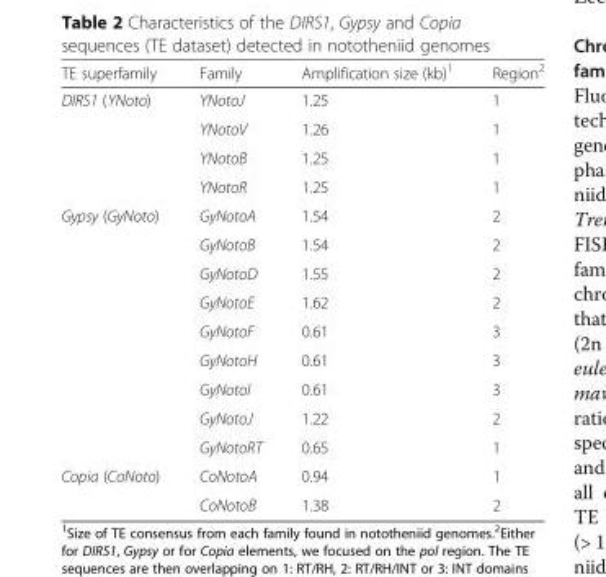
<table><thead><tr><td>TE superfamily</td><td>Family</td><td>Amplification size (kb)<sup>1</sup></td><td>Region<sup>2</sup></td></tr></thead><tbody><tr><td rowspan="4">DIRS1 (YNoto)</td><td>YNotoJ</td><td>1.25</td><td>1</td></tr><tr><td>YNotoV</td><td>1.26</td><td>1</td></tr><tr><td>YNotoB</td><td>1.25</td><td>1</td></tr><tr><td>YNotoR</td><td>1.25</td><td>1</td></tr><tr><td rowspan="9">Gypsy (GyNoto)</td><td>GyNotoA</td><td>1.54</td><td>2</td></tr><tr><td>GyNotoB</td><td>1.54</td><td>2</td></tr><tr><td>GyNotoD</td><td>1.55</td><td>2</td></tr><tr><td>GyNotoE</td><td>1.62</td><td>2</td></tr><tr><td>GyNotoF</td><td>0.61</td><td>3</td></tr><tr><td>GyNotoH</td><td>0.61</td><td>3</td></tr><tr><td>GyNotoI</td><td>0.61</td><td>3</td></tr><tr><td>GyNotoJ</td><td>1.22</td><td>2</td></tr><tr><td>GyNotoRT</td><td>0.65</td><td>1</td></tr><tr><td rowspan="2">Copia (CoNoto)</td><td>CoNotoA</td><td>0.94</td><td>1</td></tr><tr><td>CoNotoB</td><td>1.38</td><td>2</td></tr></tbody></table>